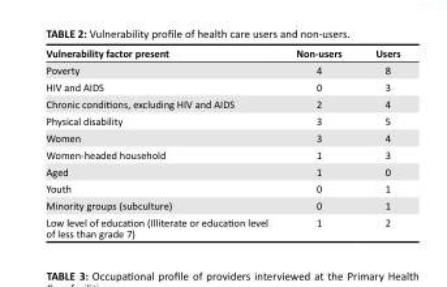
<table><thead><tr><td>Vulnerability factor present</td><td>Non-users</td><td>Users</td></tr></thead><tbody><tr><td>Poverty</td><td>4</td><td>8</td></tr><tr><td>HIV and AIDS</td><td>0</td><td>3</td></tr><tr><td>Chronic conditions, excluding HIV and AIDS</td><td>2</td><td>4</td></tr><tr><td>Physical disability</td><td>3</td><td>5</td></tr><tr><td>Women</td><td>3</td><td>4</td></tr><tr><td>Women-headed household</td><td>1</td><td>3</td></tr><tr><td>Aged</td><td>1</td><td>0</td></tr><tr><td>Youth</td><td>0</td><td>1</td></tr><tr><td>Minority groups (subculture)</td><td>0</td><td>1</td></tr><tr><td>Low level of education (Illiterate or education level of less than grade 7)</td><td>1</td><td>2</td></tr></tbody></table>